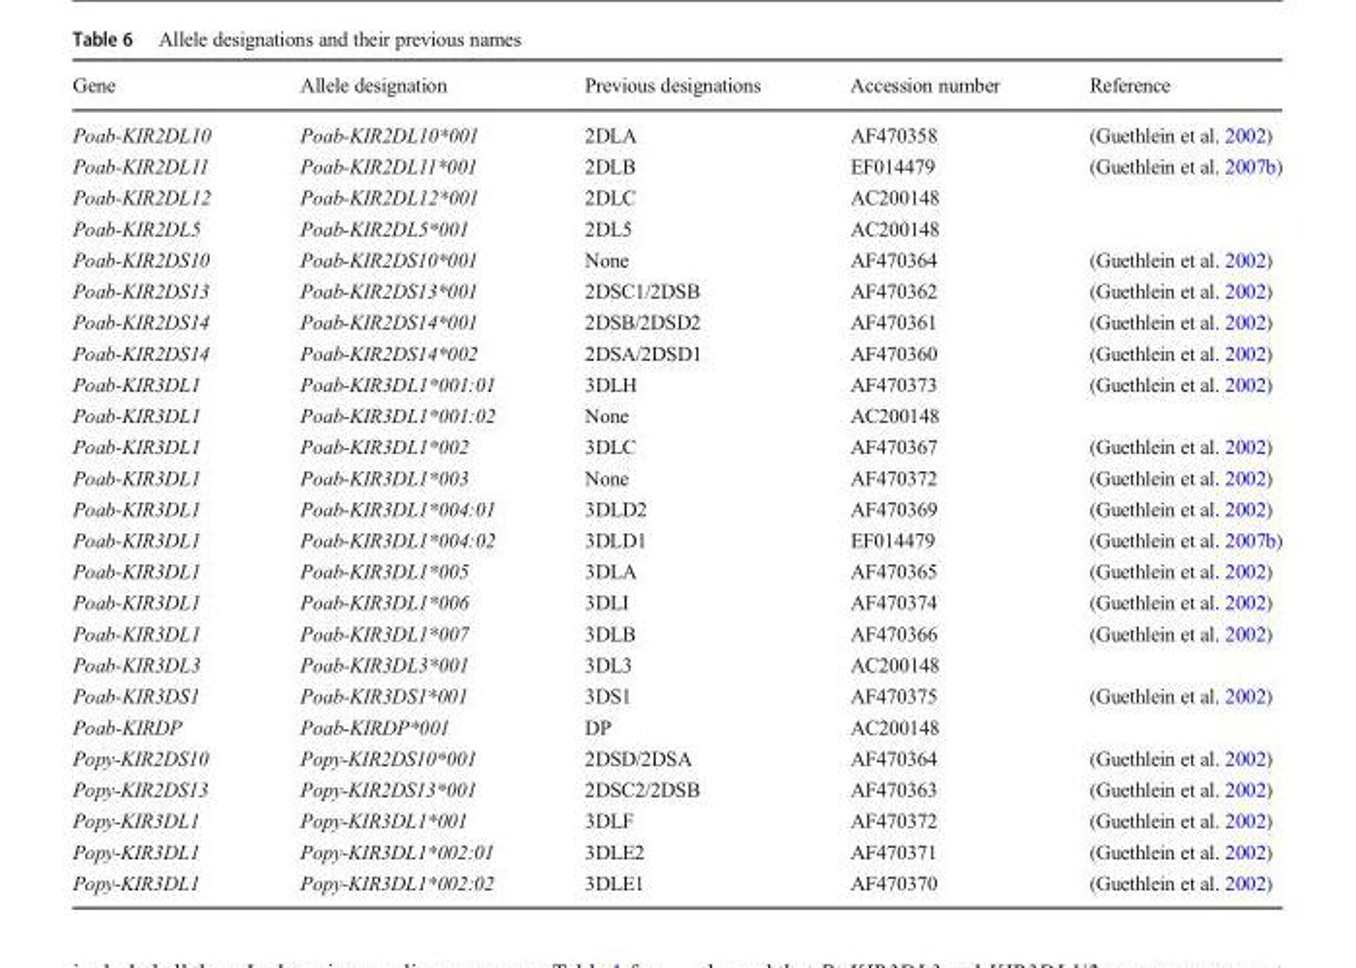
<table><thead><tr><td>Gene</td><td>Allele designation</td><td>Previous designations</td><td>Accession number</td><td>Reference</td></tr></thead><tbody><tr><td>Poab-KIR2DL10</td><td>Poab-KIR2DL10*001</td><td>2DLA</td><td>AF470358</td><td>(Guethlein et al. 2002)</td></tr><tr><td>Poab-KIR2DL11</td><td>Poab-KIR2DL11*001</td><td>2DLB</td><td>EF014479</td><td>(Guethlein et al. 2007b)</td></tr><tr><td>Poab-KIR2DL12</td><td>Poab-KIR2DL12*001</td><td>2DLC</td><td>AC200148</td><td></td></tr><tr><td>Poab-KIR2DL5</td><td>Poab-KIR2DL5*001</td><td>2DL5</td><td>AC200148</td><td></td></tr><tr><td>Poab-KIR2DS10</td><td>Poab-KIR2DS10*001</td><td>None</td><td>AF470364</td><td>(Guethlein et al. 2002)</td></tr><tr><td>Poab-KIR2DS13</td><td>Poab-KIR2DS13*001</td><td>2DSC1/2DSB</td><td>AF470362</td><td>(Guethlein et al. 2002)</td></tr><tr><td>Poab-KIR2DS14</td><td>Poab-KIR2DS14*001</td><td>2DSB/2DSD2</td><td>AF470361</td><td>(Guethlein et al. 2002)</td></tr><tr><td>Poab-KIR2DS14</td><td>Poab-KIR2DS14*002</td><td>2DSA/2DSD1</td><td>AF470360</td><td>(Guethlein et al. 2002)</td></tr><tr><td>Poab-KIR3DL1</td><td>Poab-KIR3DL1*001:01</td><td>3DLH</td><td>AF470373</td><td>(Guethlein et al. 2002)</td></tr><tr><td>Poab-KIR3DL1</td><td>Poab-KIR3DL1*001:02</td><td>None</td><td>AC200148</td><td></td></tr><tr><td>Poab-KIR3DL1</td><td>Poab-KIR3DL1*002</td><td>3DLC</td><td>AF470367</td><td>(Guethlein et al. 2002)</td></tr><tr><td>Poab-KIR3DL1</td><td>Poab-KIR3DL1*003</td><td>None</td><td>AF470372</td><td>(Guethlein et al. 2002)</td></tr><tr><td>Poab-KIR3DL1</td><td>Poab-KIR3DL1*004:01</td><td>3DLD2</td><td>AF470369</td><td>(Guethlein et al. 2002)</td></tr><tr><td>Poab-KIR3DL1</td><td>Poab-KIR3DL1*004:02</td><td>3DLD1</td><td>EF014479</td><td>(Guethlein et al. 2007b)</td></tr><tr><td>Poab-KIR3DL1</td><td>Poab-KIR3DL1*005</td><td>3DLA</td><td>AF470365</td><td>(Guethlein et al. 2002)</td></tr><tr><td>Poab-KIR3DL1</td><td>Poab-KIR3DL1*006</td><td>3DLI</td><td>AF470374</td><td>(Guethlein et al. 2002)</td></tr><tr><td>Poab-KIR3DL1</td><td>Poab-KIR3DL1*007</td><td>3DLB</td><td>AF470366</td><td>(Guethlein et al. 2002)</td></tr><tr><td>Poab-KIR3DL3</td><td>Poab-KIR3DL3*001</td><td>3DL3</td><td>AC200148</td><td></td></tr><tr><td>Poab-KIR3DS1</td><td>Poab-KIR3DS1*001</td><td>3DS1</td><td>AF470375</td><td>(Guethlein et al. 2002)</td></tr><tr><td>Poab-KIRDP</td><td>Poab-KIRDP*001</td><td>DP</td><td>AC200148</td><td></td></tr><tr><td>Popy-KIR2DS10</td><td>Popy-KIR2DS10*001</td><td>2DSD/2DSA</td><td>AF470364</td><td>(Guethlein et al. 2002)</td></tr><tr><td>Popy-KIR2DS13</td><td>Popy-KIR2DS13*001</td><td>2DSC2/2DSB</td><td>AF470363</td><td>(Guethlein et al. 2002)</td></tr><tr><td>Popy-KIR3DL1</td><td>Popy-KIR3DL1*001</td><td>3DLF</td><td>AF470372</td><td>(Guethlein et al. 2002)</td></tr><tr><td>Popy-KIR3DL1</td><td>Popy-KIR3DL1*002:01</td><td>3DLE2</td><td>AF470371</td><td>(Guethlein et al. 2002)</td></tr><tr><td>Popy-KIR3DL1</td><td>Popy-KIR3DL1*002:02</td><td>3DLE1</td><td>AF470370</td><td>(Guethlein et al. 2002)</td></tr></tbody></table>